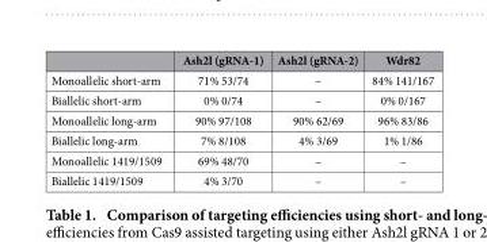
<table><thead><tr><td></td><td>Ash2l (gRNA-1)</td><td>Ash2l (gRNA-2)</td><td>Wdr82</td></tr></thead><tbody><tr><td>Monoallelic short-arm</td><td>71% 53/74</td><td>–</td><td>84% 141/167</td></tr><tr><td>Biallelic short-arm</td><td>0% 0/74</td><td>–</td><td>0% 0/167</td></tr><tr><td>Monoallelic long-arm</td><td>90% 97/108</td><td>90% 62/69</td><td>96% 83/86</td></tr><tr><td>Biallelic long-arm</td><td>7% 8/108</td><td>4% 3/69</td><td>1% 1/86</td></tr><tr><td>Monoallelic 1419/1509</td><td>69% 48/70</td><td>–</td><td>–</td></tr><tr><td>Biallelic 1419/1509</td><td>4% 3/70</td><td>–</td><td>–</td></tr></tbody></table>